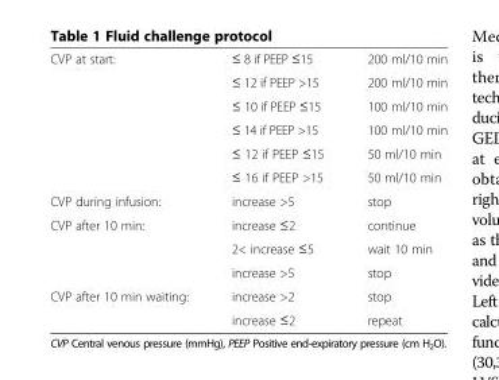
<table><tbody><tr><td rowspan="6">CVP at start:</td><td>≤ 8 if PEEP ≤15</td><td>200 ml/10 min</td></tr><tr><td>≤ 12 if PEEP &gt;15</td><td>200 ml/10 min</td></tr><tr><td>≤ 10 if PEEP ≤15</td><td>100 ml/10 min</td></tr><tr><td>≤ 14 if PEEP &gt;15</td><td>100 ml/10 min</td></tr><tr><td>≤ 12 if PEEP ≤15</td><td>50 ml/10 min</td></tr><tr><td>≤ 16 if PEEP &gt;15</td><td>50 ml/10 min</td></tr><tr><td>CVP during infusion:</td><td>increase &gt;5</td><td>stop</td></tr><tr><td rowspan="3">CVP after 10 min:</td><td>increase ≤2</td><td>continue</td></tr><tr><td>2&lt; increase ≤5</td><td>wait 10 min</td></tr><tr><td>increase &gt;5</td><td>stop</td></tr><tr><td rowspan="2">CVP after 10 min waiting:</td><td>increase &gt;2</td><td>stop</td></tr><tr><td>increase ≤2</td><td>repeat</td></tr></tbody></table>